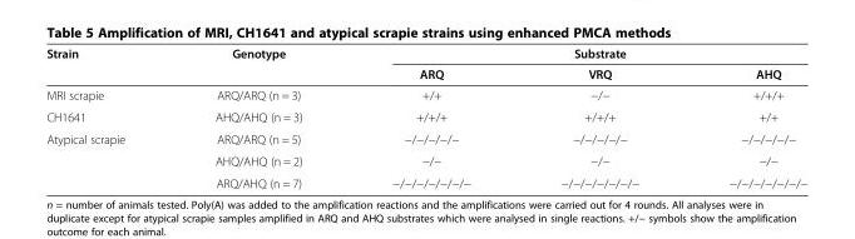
<table><thead><tr><td rowspan="2">Strain</td><td rowspan="2">Genotype</td><td colspan="3">Substrate</td></tr><tr><td>ARQ</td><td>VRQ</td><td>AHQ</td></tr></thead><tbody><tr><td>MRI scrapie</td><td>ARQ/ARQ (n = 3)</td><td>+/+</td><td>−/−</td><td>+/+/+</td></tr><tr><td>CH1641</td><td>AHQ/AHQ (n = 3)</td><td>+/+/+</td><td>+/+/+</td><td>+/+</td></tr><tr><td rowspan="3">Atypical scrapie</td><td>ARQ/ARQ (n = 5)</td><td>−/−/−/−/−</td><td>−/−/−/−/−</td><td>−/−/−/−/−</td></tr><tr><td>AHQ/AHQ (n = 2)</td><td>−/−</td><td>−/−</td><td>−/−</td></tr><tr><td>ARQ/AHQ (n = 7)</td><td>−/−/−/−/−/−/−</td><td>−/−/−/−/−/−/−</td><td>−/−/−/−/−/−/−</td></tr></tbody></table>